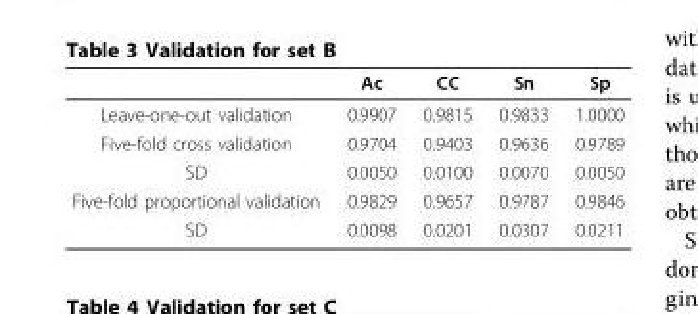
<table><thead><tr><td></td><td>Ac</td><td>CC</td><td>Sn</td><td>Sp</td></tr></thead><tbody><tr><td>Leave-one-out validation</td><td>0.9907</td><td>0.9815</td><td>0.9833</td><td>1.0000</td></tr><tr><td>Five-fold cross validation</td><td>0.9704</td><td>0.9403</td><td>0.9636</td><td>0.9789</td></tr><tr><td>SD</td><td>0.0050</td><td>0.0100</td><td>0.0070</td><td>0.0050</td></tr><tr><td>Five-fold proportional validation</td><td>0.9829</td><td>0.9657</td><td>0.9787</td><td>0.9846</td></tr><tr><td>SD</td><td>0.0098</td><td>0.0201</td><td>0.0307</td><td>0.0211</td></tr></tbody></table>